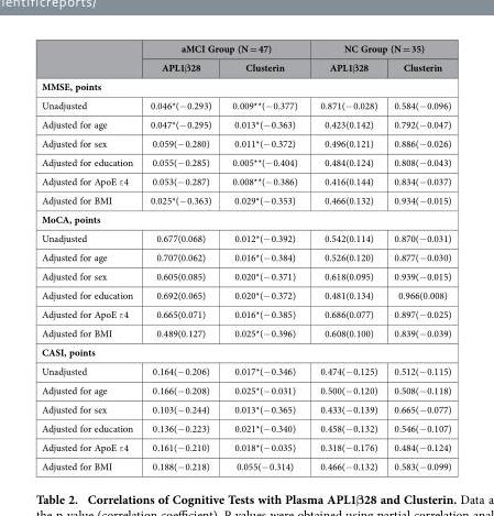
<table><thead><tr><td rowspan="2"></td><td colspan="2">aMCI Group (N = 47)</td><td colspan="2">NC Group (N = 35)</td></tr><tr><td>APL1β28</td><td>Clusterin</td><td>APL1β28</td><td>Clusterin</td></tr></thead><tbody><tr><td colspan="5">MMSE, points</td></tr><tr><td>Unadjusted</td><td>0.046*(− 0.293)</td><td>0.009**(− 0.377)</td><td>0.871(− 0.028)</td><td>0.584(− 0.096)</td></tr><tr><td>Adjusted for age</td><td>0.047*(− 0.295)</td><td>0.013*(− 0.363)</td><td>0.423(0.142)</td><td>0.792(− 0.047)</td></tr><tr><td>Adjusted for sex</td><td>0.059(− 0.280)</td><td>0.011*(− 0.372)</td><td>0.496(0.121)</td><td>0.886(− 0.026)</td></tr><tr><td>Adjusted for education</td><td>0.055(− 0.285)</td><td>0.005**(− 0.404)</td><td>0.484(0.124)</td><td>0.808(− 0.043)</td></tr><tr><td>Adjusted for ApoE ε 4</td><td>0.053(− 0.287)</td><td>0.008**(− 0.386)</td><td>0.416(0.144)</td><td>0.834(− 0.037)</td></tr><tr><td>Adjusted for BMI</td><td>0.025*(− 0.363)</td><td>0.029*(− 0.353)</td><td>0.466(0.132)</td><td>0.934(− 0.015)</td></tr><tr><td colspan="5">MoCA, points</td></tr><tr><td>Unadjusted</td><td>0.677(0.068)</td><td>0.012*(− 0.392)</td><td>0.542(0.114)</td><td>0.870(− 0.031)</td></tr><tr><td>Adjusted for age</td><td>0.707(0.062)</td><td>0.016*(− 0.384)</td><td>0.526(0.120)</td><td>0.877(− 0.030)</td></tr><tr><td>Adjusted for sex</td><td>0.605(0.085)</td><td>0.020*(− 0.371)</td><td>0.618(0.095)</td><td>0.939(− 0.015)</td></tr><tr><td>Adjusted for education</td><td>0.692(0.065)</td><td>0.020*(− 0.372)</td><td>0.481(0.134)</td><td>0.966(0.008)</td></tr><tr><td>Adjusted for ApoE ε 4</td><td>0.665(0.071)</td><td>0.016*(− 0.385)</td><td>0.686(0.077)</td><td>0.897(− 0.025)</td></tr><tr><td>Adjusted for BMI</td><td>0.489(0.127)</td><td>0.025*(− 0.396)</td><td>0.608(0.100)</td><td>0.839(− 0.039)</td></tr><tr><td colspan="5">CASI, points</td></tr><tr><td>Unadjusted</td><td>0.164(− 0.206)</td><td>0.017*(− 0.346)</td><td>0.474(− 0.125)</td><td>0.512(− 0.115)</td></tr><tr><td>Adjusted for age</td><td>0.166(− 0.208)</td><td>0.025*(− 0.031)</td><td>0.500(− 0.120)</td><td>0.508(− 0.118)</td></tr><tr><td>Adjusted for sex</td><td>0.103(− 0.244)</td><td>0.013*(− 0.365)</td><td>0.433(− 0.139)</td><td>0.665(− 0.077)</td></tr><tr><td>Adjusted for education</td><td>0.136(− 0.223)</td><td>0.021*(− 0.340)</td><td>0.458(− 0.132)</td><td>0.546(− 0.107)</td></tr><tr><td>Adjusted for ApoE ε 4</td><td>0.161(− 0.210)</td><td>0.018*(− 0.035)</td><td>0.318(− 0.176)</td><td>0.484(− 0.124)</td></tr><tr><td>Adjusted for BMI</td><td>0.188(− 0.218)</td><td>0.055(− 0.314)</td><td>0.466(− 0.132)</td><td>0.583(− 0.099)</td></tr></tbody></table>